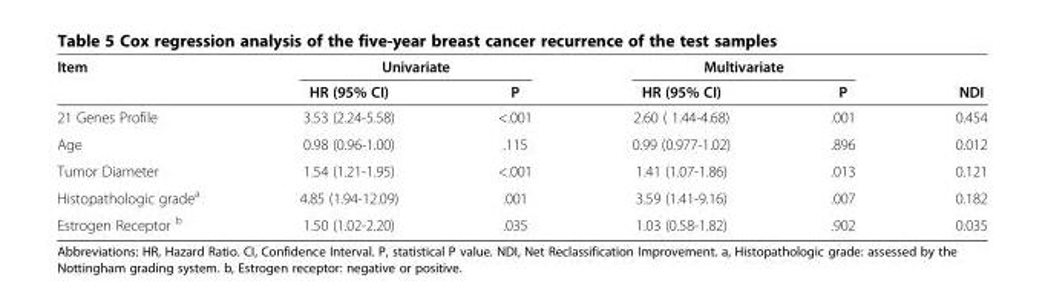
<table><thead><tr><td rowspan="2">Item</td><td colspan="2">Univariate</td><td colspan="2">Multivariate</td><td rowspan="2">NDI</td></tr><tr><td>HR (95% CI)</td><td>P</td><td>HR (95% CI)</td><td>P</td></tr></thead><tbody><tr><td>21 Genes Profile</td><td>3.53 (2.24-5.58)</td><td>&lt;.001</td><td>2.60 ( 1.44-4.68)</td><td>.001</td><td>0.454</td></tr><tr><td>Age</td><td>0.98 (0.96-1.00)</td><td>.115</td><td>0.99 (0.977-1.02)</td><td>.896</td><td>0.012</td></tr><tr><td>Tumor Diameter</td><td>1.54 (1.21-1.95)</td><td>&lt;.001</td><td>1.41 (1.07-1.86)</td><td>.013</td><td>0.121</td></tr><tr><td>Histopathologic grade<sup>a</sup></td><td>4.85 (1.94-12.09)</td><td>.001</td><td>3.59 (1.41-9.16)</td><td>.007</td><td>0.182</td></tr><tr><td>Estrogen Receptor <sup>b</sup></td><td>1.50 (1.02-2.20)</td><td>.035</td><td>1.03 (0.58-1.82)</td><td>.902</td><td>0.035</td></tr></tbody></table>